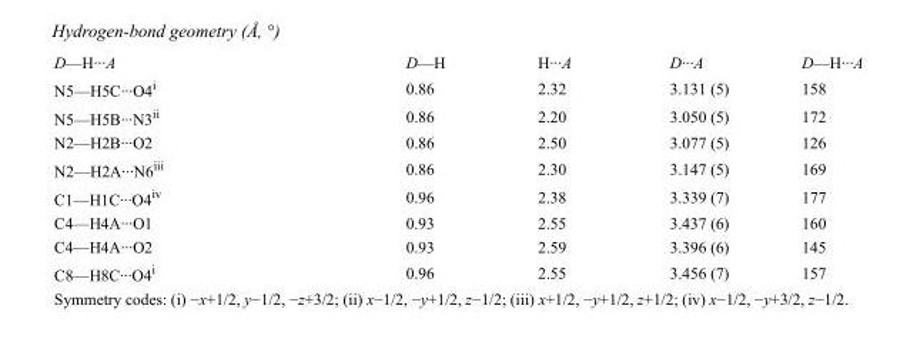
<table><tbody><tr><td>D—H···A</td><td>D—H</td><td>H···A</td><td>D···A</td><td>D—H···A</td></tr><tr><td>N5—H5C···O4<sup>i</sup></td><td>0.86</td><td>2.32</td><td>3.131 (5)</td><td>158</td></tr><tr><td>N5—H5B···N3<sup>ii</sup></td><td>0.86</td><td>2.20</td><td>3.050 (5)</td><td>172</td></tr><tr><td>N2—H2B···O2</td><td>0.86</td><td>2.50</td><td>3.077 (5)</td><td>126</td></tr><tr><td>N2—H2A···N6<sup>iii</sup></td><td>0.86</td><td>2.30</td><td>3.147 (5)</td><td>169</td></tr><tr><td>C1—H1C···O4<sup>iv</sup></td><td>0.96</td><td>2.38</td><td>3.339 (7)</td><td>177</td></tr><tr><td>C4—H4A···O1</td><td>0.93</td><td>2.55</td><td>3.437 (6)</td><td>160</td></tr><tr><td>C4—H4A···O2</td><td>0.93</td><td>2.59</td><td>3.396 (6)</td><td>145</td></tr><tr><td>C8—H8C···O4<sup>i</sup></td><td>0.96</td><td>2.55</td><td>3.456 (7)</td><td>157</td></tr></tbody></table>